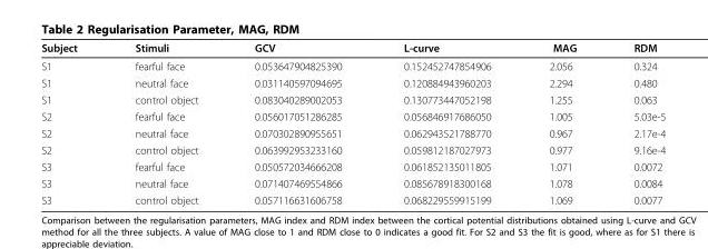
<table><thead><tr><td>Subject</td><td>Stimuli</td><td>GCV</td><td>L-curve</td><td>MAG</td><td>RDM</td></tr></thead><tbody><tr><td>S1</td><td>fearful face</td><td>0.053647904825390</td><td>0.152452747854906</td><td>2.056</td><td>0.324</td></tr><tr><td>S1</td><td>neutral face</td><td>0.031140597094695</td><td>0.120884943960203</td><td>2.294</td><td>0.480</td></tr><tr><td>S1</td><td>control object</td><td>0.083040289002053</td><td>0.130773447052198</td><td>1.255</td><td>0.063</td></tr><tr><td>S2</td><td>fearful face</td><td>0.056017051286285</td><td>0.056846917686050</td><td>1.005</td><td>5.03e-5</td></tr><tr><td>S2</td><td>neutral face</td><td>0.070302890955651</td><td>0.062943521788770</td><td>0.967</td><td>2.17e-4</td></tr><tr><td>S2</td><td>control object</td><td>0.063992953233160</td><td>0.059812187027973</td><td>0.977</td><td>9.16e-4</td></tr><tr><td>S3</td><td>fearful face</td><td>0.050572034666208</td><td>0.061852135011805</td><td>1.071</td><td>0.0072</td></tr><tr><td>S3</td><td>neutral face</td><td>0.071407469554866</td><td>0.085678918300168</td><td>1.078</td><td>0.0084</td></tr><tr><td>S3</td><td>control object</td><td>0.057116631606758</td><td>0.068229559915199</td><td>1.069</td><td>0.0077</td></tr></tbody></table>